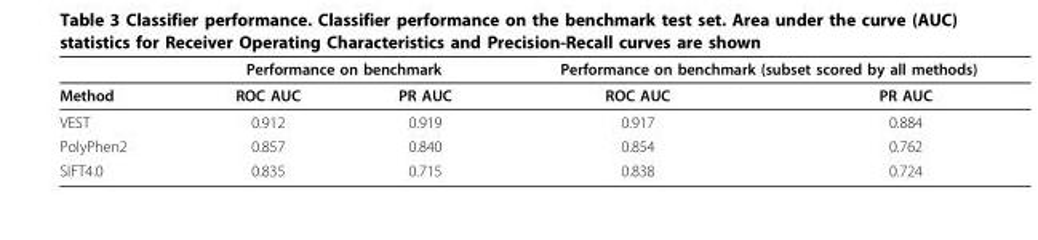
<table><thead><tr><td rowspan="2">Method</td><td colspan="2">Performance on benchmark</td><td colspan="2">Performance on benchmark (subset scored by all methods)</td></tr><tr><td>ROC AUC</td><td>PR AUC</td><td>ROC AUC</td><td>PR AUC</td></tr></thead><tbody><tr><td>VEST</td><td>0.912</td><td>0.919</td><td>0.917</td><td>0.884</td></tr><tr><td>PolyPhen2</td><td>0.857</td><td>0.840</td><td>0.854</td><td>0.762</td></tr><tr><td>SIFT4.0</td><td>0.835</td><td>0.715</td><td>0.838</td><td>0.724</td></tr></tbody></table>